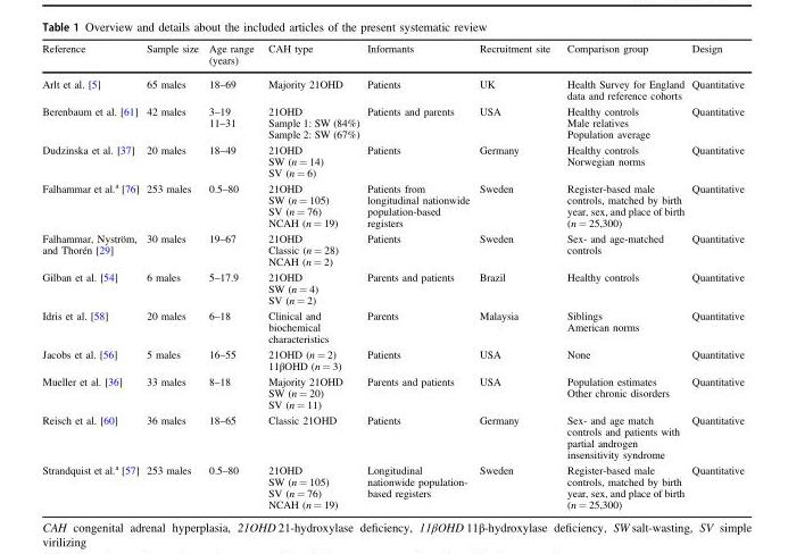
<table><thead><tr><td>Reference</td><td>Sample size</td><td>Age range (years)</td><td>CAH type</td><td>Informants</td><td>Recruitment site</td><td>Comparison group</td><td>Design</td></tr></thead><tbody><tr><td>Arlt et al. [5]</td><td>65 males</td><td>18–69</td><td>Majority 21OHD</td><td>Patients</td><td>UK</td><td>Health Survey for England data and reference cohorts</td><td>Quantitative</td></tr><tr><td>Berenbaum et al. [61]</td><td>42 males</td><td>3–19 11–31</td><td>21OHD Sample 1: SW (84%) Sample 2: SW (67%)</td><td>Patients and parents</td><td>USA</td><td>Healthy controls Male relatives Population average</td><td>Quantitative</td></tr><tr><td>Dudzinska et al. [37]</td><td>20 males</td><td>18–49</td><td>21OHD SW (n = 14) SV (n = 6)</td><td>Patients</td><td>Germany</td><td>Healthy controls Norwegian norms</td><td>Quantitative</td></tr><tr><td>Falhammar et al.<sup>a</sup> [76]</td><td>253 males</td><td>0.5–80</td><td>21OHD SW (n = 105) SV (n = 76) NCAH (n = 19)</td><td>Patients from longitudinal nationwide population-based registers</td><td>Sweden</td><td>Register-based male controls, matched by birth year, sex, and place of birth (n = 25,300)</td><td>Quantitative</td></tr><tr><td>Falhammar, Nyström, and Thorén [29]</td><td>30 males</td><td>19–67</td><td>21OHD Classic (n = 28) NCAH (n = 2)</td><td>Patients</td><td>Sweden</td><td>Sex- and age-matched controls</td><td>Quantitative</td></tr><tr><td>Gilban et al. [54]</td><td>6 males</td><td>5–17.9</td><td>21OHD SW (n = 4) SV (n = 2)</td><td>Parents and patients</td><td>Brazil</td><td>Healthy controls</td><td>Quantitative</td></tr><tr><td>Idris et al. [58]</td><td>20 males</td><td>6–18</td><td>Clinical and biochemical characteristics</td><td>Parents</td><td>Malaysia</td><td>Siblings American norms</td><td>Quantitative</td></tr><tr><td>Jacobs et al. [56]</td><td>5 males</td><td>16–55</td><td>21OHD (n = 2) 11βOHD (n = 3)</td><td>Patients</td><td>USA</td><td>None</td><td>Quantitative</td></tr><tr><td>Mueller et al. [36]</td><td>33 males</td><td>8–18</td><td>Majority 21OHD SW (n = 20) SV (n = 11)</td><td>Parents and patients</td><td>USA</td><td>Population estimates Other chronic disorders</td><td>Quantitative</td></tr><tr><td>Reisch et al. [60]</td><td>36 males</td><td>18–65</td><td>Classic 21OHD</td><td>Patients</td><td>Germany</td><td>Sex- and age match controls and patients with partial androgen insensitivity syndrome</td><td>Quantitative</td></tr><tr><td>Strandquist et al.<sup>a</sup> [57]</td><td>253 males</td><td>0.5–80</td><td>21OHD SW (n = 105) SV (n = 76) NCAH (n = 19)</td><td>Longitudinal nationwide population- based registers</td><td>Sweden</td><td>Register-based male controls, matched by birth year, sex, and place of birth (n = 25,300)</td><td>Quantitative</td></tr></tbody></table>